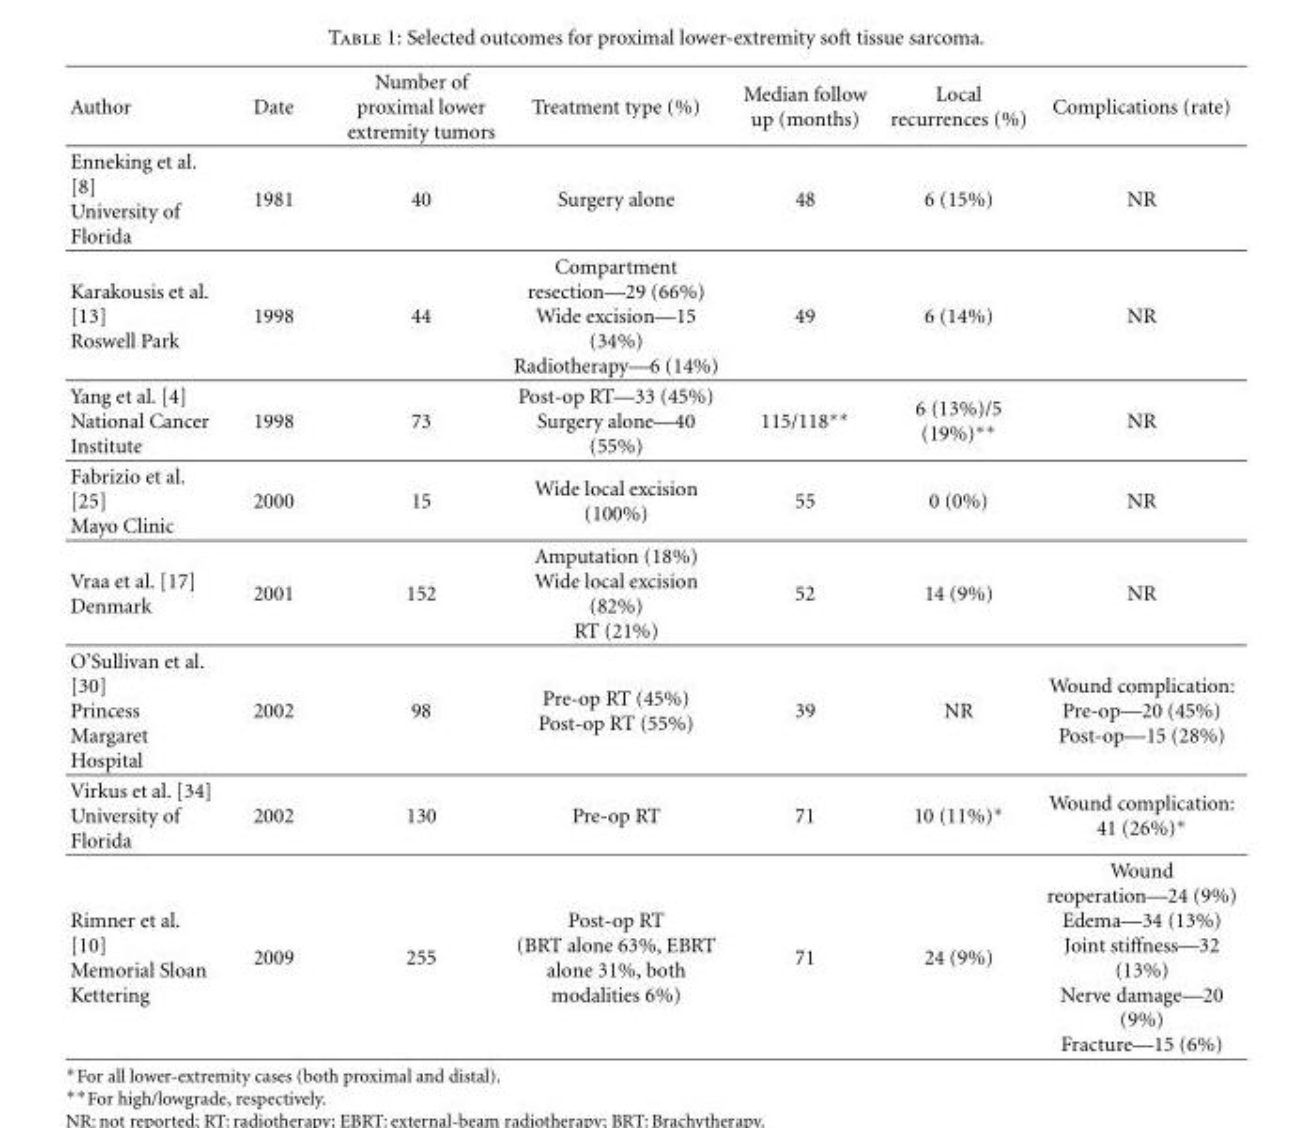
<table><thead><tr><td>Author</td><td>Date</td><td>Number of proximal lower extremity tumors</td><td>Treatment type (%)</td><td>Median follow up (months)</td><td>Local recurrences (%)</td><td>Complications (rate)</td></tr></thead><tbody><tr><td>Enneking et al. [8] University of Florida</td><td>1981</td><td>40</td><td>Surgery alone</td><td>48</td><td>6 (15%)</td><td>NR</td></tr><tr><td>Karakousis et al. [13] Roswell Park</td><td>1998</td><td>44</td><td>Compartment resection—29 (66%) Wide excision—15 (34%) Radiotherapy—6 (14%)</td><td>49</td><td>6 (14%)</td><td>NR</td></tr><tr><td>Yang et al. [4] National Cancer Institute</td><td>1998</td><td>73</td><td>Post-op RT—33 (45%) Surgery alone—40 (55%)</td><td>115/118∗∗</td><td>6 (13%)/5 (19%)∗∗</td><td>NR</td></tr><tr><td>Fabrizio et al. [25] Mayo Clinic</td><td>2000</td><td>15</td><td>Wide local excision (100%)</td><td>55</td><td>0 (0%)</td><td>NR</td></tr><tr><td>Vraa et al. [17] Denmark</td><td>2001</td><td>152</td><td>Amputation (18%) Wide local excision (82%) RT (21%)</td><td>52</td><td>14 (9%)</td><td>NR</td></tr><tr><td>O’Sullivan et al. [30] Princess Margaret Hospital</td><td>2002</td><td>98</td><td>Pre-op RT (45%) Post-op RT (55%)</td><td>39</td><td>NR</td><td>Wound complication: Pre-op—20 (45%) Post-op—15 (28%)</td></tr><tr><td>Virkus et al. [34] University of Florida</td><td>2002</td><td>130</td><td>Pre-op RT</td><td>71</td><td>10 (11%)∗</td><td>Wound complication: 41 (26%)∗</td></tr><tr><td>Rimner et al. [10] Memorial Sloan Kettering</td><td>2009</td><td>255</td><td>Post-op RT (BRT alone 63%, EBRT alone 31%, both modalities 6%)</td><td>71</td><td>24 (9%)</td><td>Wound reoperation—24 (9%) Edema—34 (13%) Joint stiffness—32 (13%) Nerve damage—20 (9%) Fracture—15 (6%)</td></tr></tbody></table>